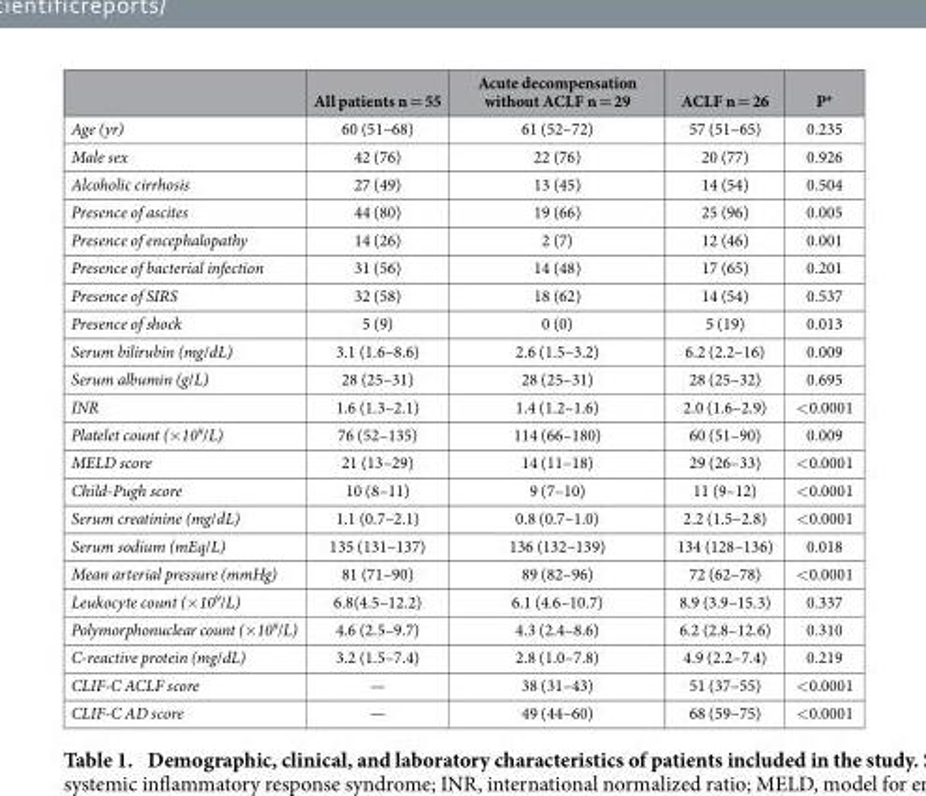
<table><thead><tr><td></td><td>All patients n = 55</td><td>Acute decompensation without ACLF n = 29</td><td>ACLF n = 26</td><td>P*</td></tr></thead><tbody><tr><td>Age (yr)</td><td>60 (51–68)</td><td>61 (52–72)</td><td>57 (51–65)</td><td>0.235</td></tr><tr><td>Male sex</td><td>42 (76)</td><td>22 (76)</td><td>20 (77)</td><td>0.926</td></tr><tr><td>Alcoholic cirrhosis</td><td>27 (49)</td><td>13 (45)</td><td>14 (54)</td><td>0.504</td></tr><tr><td>Presence of ascites</td><td>44 (80)</td><td>19 (66)</td><td>25 (96)</td><td>0.005</td></tr><tr><td>Presence of encephalopathy</td><td>14 (26)</td><td>2 (7)</td><td>12 (46)</td><td>0.001</td></tr><tr><td>Presence of bacterial infection</td><td>31 (56)</td><td>14 (48)</td><td>17 (65)</td><td>0.201</td></tr><tr><td>Presence of SIRS</td><td>32 (58)</td><td>18 (62)</td><td>14 (54)</td><td>0.537</td></tr><tr><td>Presence of shock</td><td>5 (9)</td><td>0 (0)</td><td>5 (19)</td><td>0.013</td></tr><tr><td>Serum bilirubin (mg/dL)</td><td>3.1 (1.6–8.6)</td><td>2.6 (1.5–3.2)</td><td>6.2 (2.2–16)</td><td>0.009</td></tr><tr><td>Serum albumin (g/L)</td><td>28 (25–31)</td><td>28 (25–31)</td><td>28 (25–32)</td><td>0.695</td></tr><tr><td>INR</td><td>1.6 (1.3–2.1)</td><td>1.4 (1.2–1.6)</td><td>2.0 (1.6–2.9)</td><td>&lt; 0.0001</td></tr><tr><td>Platelet count (×10<sup>9</sup>/L)</td><td>76 (52–135)</td><td>114 (66–180)</td><td>60 (51–90)</td><td>0.009</td></tr><tr><td>MELD score</td><td>21 (13–29)</td><td>14 (11–18)</td><td>29 (26–33)</td><td>&lt; 0.0001</td></tr><tr><td>Child-Pugh score</td><td>10 (8–11)</td><td>9 (7–10)</td><td>11 (9–12)</td><td>&lt; 0.0001</td></tr><tr><td>Serum creatinine (mg/dL)</td><td>1.1 (0.7–2.1)</td><td>0.8 (0.7–1.0)</td><td>2.2 (1.5–2.8)</td><td>&lt; 0.0001</td></tr><tr><td>Serum sodium (mEq/L)</td><td>135 (131–137)</td><td>136 (132–139)</td><td>134 (128–136)</td><td>0.018</td></tr><tr><td>Mean arterial pressure (mmHg)</td><td>81 (71–90)</td><td>89 (82–96)</td><td>72 (62–78)</td><td>&lt; 0.0001</td></tr><tr><td>Leukocyte count (×10<sup>9</sup>/L)</td><td>6.8(4.5–12.2)</td><td>6.1 (4.6–10.7)</td><td>8.9 (3.9–15.3)</td><td>0.337</td></tr><tr><td>Polymorphonuclear count (×10<sup>9</sup>/L)</td><td>4.6 (2.5–9.7)</td><td>4.3 (2.4–8.6)</td><td>6.2 (2.8–12.6)</td><td>0.310</td></tr><tr><td>C-reactive protein (mg/dL)</td><td>3.2 (1.5–7.4)</td><td>2.8 (1.0–7.8)</td><td>4.9 (2.2–7.4)</td><td>0.219</td></tr><tr><td>CLIF-C ACLF score</td><td>—</td><td>38 (31–43)</td><td>51 (37–55)</td><td>&lt; 0.0001</td></tr><tr><td>CLIF-C AD score</td><td>—</td><td>49 (44–60)</td><td>68 (59–75)</td><td>&lt; 0.0001</td></tr></tbody></table>